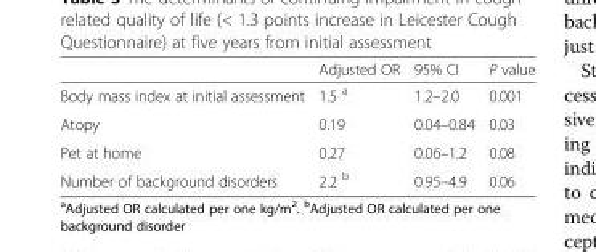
<table><thead><tr><td></td><td>Adjusted OR</td><td>95% CI</td><td>P value</td></tr></thead><tbody><tr><td>Body mass index at initial assessment</td><td>1.5 <sup>a</sup></td><td>1.2–2.0</td><td>0.001</td></tr><tr><td>Atopy</td><td>0.19</td><td>0.04–0.84</td><td>0.03</td></tr><tr><td>Pet at home</td><td>0.27</td><td>0.06–1.2</td><td>0.08</td></tr><tr><td>Number of background disorders</td><td>2.2 <sup>b</sup></td><td>0.95–4.9</td><td>0.06</td></tr></tbody></table>